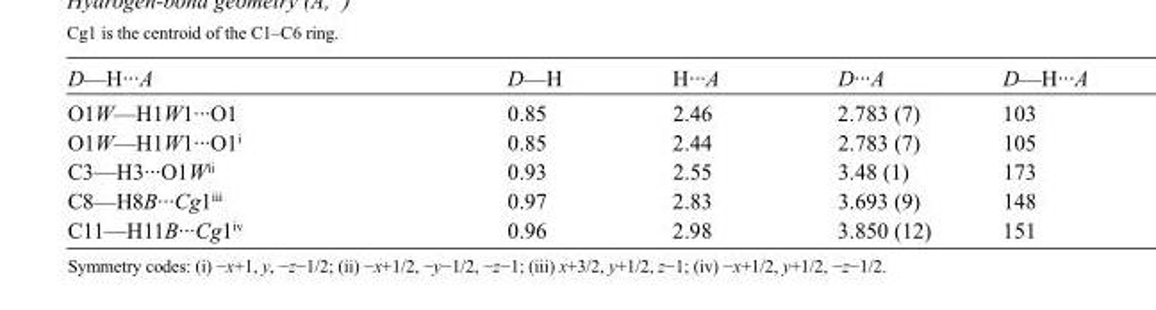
<table><tbody><tr><td>D—H···A</td><td>D—H</td><td>H···A</td><td>D···A</td><td>D—H···A</td></tr><tr><td>O1W—H1W1···O1</td><td>0.85</td><td>2.46</td><td>2.783 (7)</td><td>103</td></tr><tr><td>O1W—H1W1···O1<sup>i</sup></td><td>0.85</td><td>2.44</td><td>2.783 (7)</td><td>105</td></tr><tr><td>C3—H3···O1W<sup>ii</sup></td><td>0.93</td><td>2.55</td><td>3.48 (1)</td><td>173</td></tr><tr><td>C8—H8B···Cg1<sup>iii</sup></td><td>0.97</td><td>2.83</td><td>3.693 (9)</td><td>148</td></tr><tr><td>C11—H11B···Cg1<sup>iv</sup></td><td>0.96</td><td>2.98</td><td>3.850 (12)</td><td>151</td></tr></tbody></table>